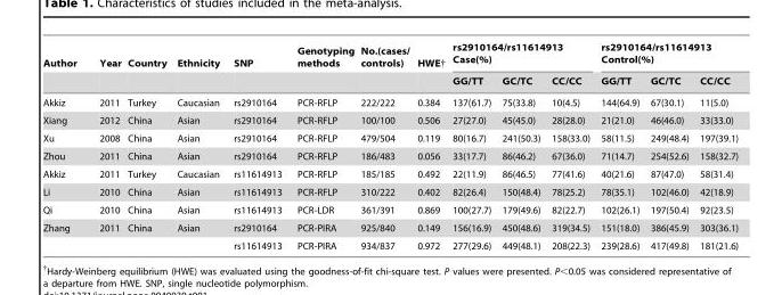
<table><thead><tr><td rowspan="2">Author</td><td rowspan="2">Year</td><td rowspan="2">Country</td><td rowspan="2">Ethnicity</td><td rowspan="2">SNP</td><td rowspan="2">Genotyping methods</td><td rowspan="2">No.(cases/ controls)</td><td rowspan="2">HWE†</td><td colspan="3">rs2910164/rs11614913 Case(%)</td><td colspan="3">rs2910164/rs11614913 Control(%)</td></tr><tr><td>GG/TT</td><td>GC/TC</td><td>CC/CC</td><td>GG/TT</td><td>GC/TC</td><td>CC/CC</td></tr></thead><tbody><tr><td>Akkiz</td><td>2011</td><td>Turkey</td><td>Caucasian</td><td>rs2910164</td><td>PCR-RFLP</td><td>222/222</td><td>0.384</td><td>137(61.7)</td><td>75(33.8)</td><td>10(4.5)</td><td>144(64.9)</td><td>67(30.1)</td><td>11(5.0)</td></tr><tr><td>Xiang</td><td>2012</td><td>China</td><td>Asian</td><td>rs2910164</td><td>PCR-RFLP</td><td>100/100</td><td>0.506</td><td>27(27.0)</td><td>45(45.0)</td><td>28(28.0)</td><td>21(21.0)</td><td>46(46.0)</td><td>33(33.0)</td></tr><tr><td>Xu</td><td>2008</td><td>China</td><td>Asian</td><td>rs2910164</td><td>PCR-RFLP</td><td>479/504</td><td>0.119</td><td>80(16.7)</td><td>241(50.3)</td><td>158(33.0)</td><td>58(11.5)</td><td>249(48.4)</td><td>197(39.1)</td></tr><tr><td>Zhou</td><td>2011</td><td>China</td><td>Asian</td><td>rs2910164</td><td>PCR-RFLP</td><td>186/483</td><td>0.056</td><td>33(17.7)</td><td>86(46.2)</td><td>67(36.0)</td><td>71(14.7)</td><td>254(52.6)</td><td>158(32.7)</td></tr><tr><td>Akkiz</td><td>2011</td><td>Turkey</td><td>Caucasian</td><td>rs11614913</td><td>PCR-RFLP</td><td>185/185</td><td>0.492</td><td>22(11.9)</td><td>86(46.5)</td><td>77(41.6)</td><td>40(21.6)</td><td>87(47.0)</td><td>58(31.4)</td></tr><tr><td>Li</td><td>2010</td><td>China</td><td>Asian</td><td>rs11614913</td><td>PCR-RFLP</td><td>310/222</td><td>0.402</td><td>82(26.4)</td><td>150(48.4)</td><td>78(25.2)</td><td>78(35.1)</td><td>102(46.0)</td><td>42(18.9)</td></tr><tr><td>Qi</td><td>2010</td><td>China</td><td>Asian</td><td>rs11614913</td><td>PCR-LDR</td><td>361/391</td><td>0.869</td><td>100(27.7)</td><td>179(49.6)</td><td>82(22.7)</td><td>102(26.1)</td><td>197(50.4)</td><td>92(23.5)</td></tr><tr><td rowspan="2">Zhang</td><td>2011</td><td>China</td><td>Asian</td><td>rs2910164</td><td>PCR-PIRA</td><td>925/840</td><td>0.149</td><td>156(16.9)</td><td>450(48.6)</td><td>319(34.5)</td><td>151(18.0)</td><td>386(45.9)</td><td>303(36.1)</td></tr><tr><td></td><td></td><td></td><td>rs11614913</td><td>PCR-PIRA</td><td>934/837</td><td>0.972</td><td>277(29.6)</td><td>449(48.1)</td><td>208(22.3)</td><td>239(28.6)</td><td>417(49.8)</td><td>181(21.6)</td></tr></tbody></table>